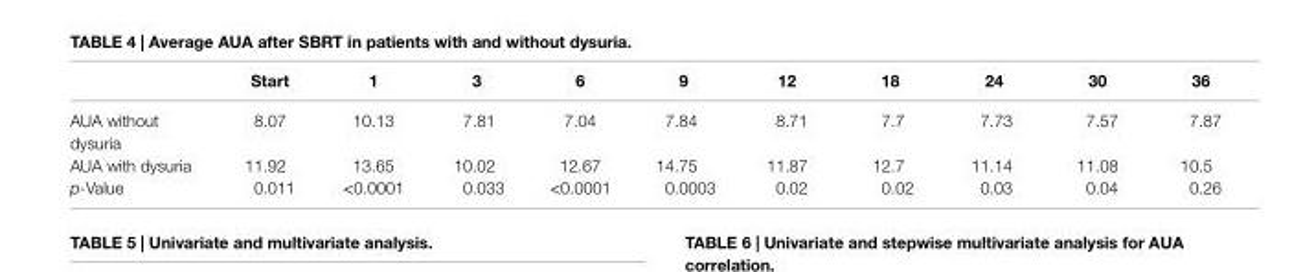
<table><thead><tr><td></td><td>start</td><td>1</td><td>3</td><td>6</td><td>9</td><td>12</td><td>18</td><td>24</td><td>30</td><td>36</td></tr></thead><tbody><tr><td>AUA without dysuria</td><td>8.07</td><td>10.13</td><td>7.81</td><td>7.04</td><td>7.84</td><td>8.71</td><td>7.7</td><td>7.73</td><td>7.57</td><td>7.87</td></tr><tr><td>AUA with dysuria</td><td>11.92</td><td>13.65</td><td>10.02</td><td>12.67</td><td>14.75</td><td>11.87</td><td>12.7</td><td>11.14</td><td>11.08</td><td>10.5</td></tr><tr><td>p-Value</td><td>0.011</td><td>&lt;0.0001</td><td>0.033</td><td>&lt;0.0001</td><td>0.0003</td><td>0.02</td><td>0.02</td><td>0.03</td><td>0.04</td><td>0.26</td></tr></tbody></table>